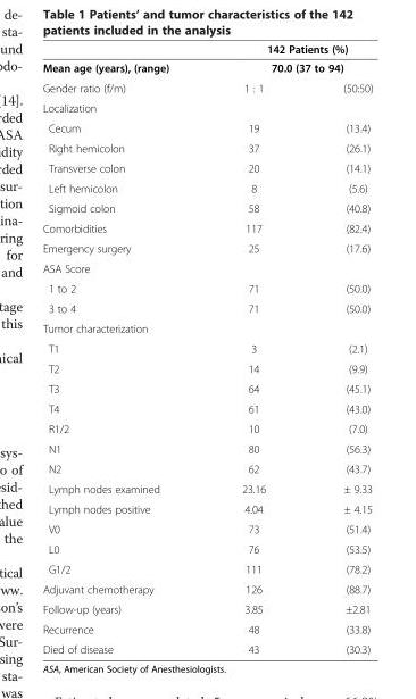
<table><thead><tr><td rowspan="3">Mean age (years), (range) Gender ratio (f/m)</td><td rowspan="2" colspan="2">142 Patients (%) 70.0 (37 to 94)</td></tr><tr></tr><tr><td>1 : 1</td><td>(50:50)</td></tr></thead><tbody><tr><td colspan="3">Localization</td></tr><tr><td>Cecum</td><td>19</td><td>(13.4)</td></tr><tr><td>Right hemicolon</td><td>37</td><td>(26.1)</td></tr><tr><td>Transverse colon</td><td>20</td><td>(14.1)</td></tr><tr><td>Left hemicolon</td><td>8</td><td>(5.6)</td></tr><tr><td>Sigmoid colon</td><td>58</td><td>(40.8)</td></tr><tr><td>Comorbidities</td><td>117</td><td>(82.4)</td></tr><tr><td>Emergency surgery</td><td>25</td><td>(17.6)</td></tr><tr><td colspan="3">ASA Score</td></tr><tr><td>1 to 2</td><td>71</td><td>(50.0)</td></tr><tr><td>3 to 4</td><td>71</td><td>(50.0)</td></tr><tr><td colspan="3">Tumor characterization</td></tr><tr><td>T1</td><td>3</td><td>(2.1)</td></tr><tr><td>T2</td><td>14</td><td>(9.9)</td></tr><tr><td>T3</td><td>64</td><td>(45.1)</td></tr><tr><td>T4</td><td>61</td><td>(43.0)</td></tr><tr><td>R1/2</td><td>10</td><td>(7.0)</td></tr><tr><td>N1</td><td>80</td><td>(56.3)</td></tr><tr><td>N2</td><td>62</td><td>(43.7)</td></tr><tr><td>Lymph nodes examined</td><td>23.16</td><td>± 9.33</td></tr><tr><td>Lymph nodes positive</td><td>4.04</td><td>± 4.15</td></tr><tr><td>V0</td><td>73</td><td>(51.4)</td></tr><tr><td>L0</td><td>76</td><td>(53.5)</td></tr><tr><td>G1/2</td><td>111</td><td>(78.2)</td></tr><tr><td>Adjuvant chemotherapy</td><td>126</td><td>(88.7)</td></tr><tr><td>Follow-up (years)</td><td>3.85</td><td>±2.81</td></tr><tr><td>Recurrence</td><td>48</td><td>(33.8)</td></tr><tr><td>Died of disease</td><td>43</td><td>(30.3)</td></tr></tbody></table>